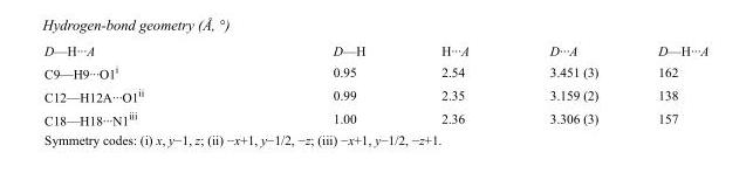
<table><tbody><tr><td>D—H···A</td><td>D—H</td><td>H···A</td><td>D···A</td><td>D—H···A</td></tr><tr><td>C9—H9···O1<sup>i</sup></td><td>0.95</td><td>2.54</td><td>3.451 (3)</td><td>162</td></tr><tr><td>C12—H12A···O1<sup>ii</sup></td><td>0.99</td><td>2.35</td><td>3.159 (2)</td><td>138</td></tr><tr><td>C18—H18···N1<sup>iii</sup></td><td>1.00</td><td>2.36</td><td>3.306 (3)</td><td>157</td></tr></tbody></table>